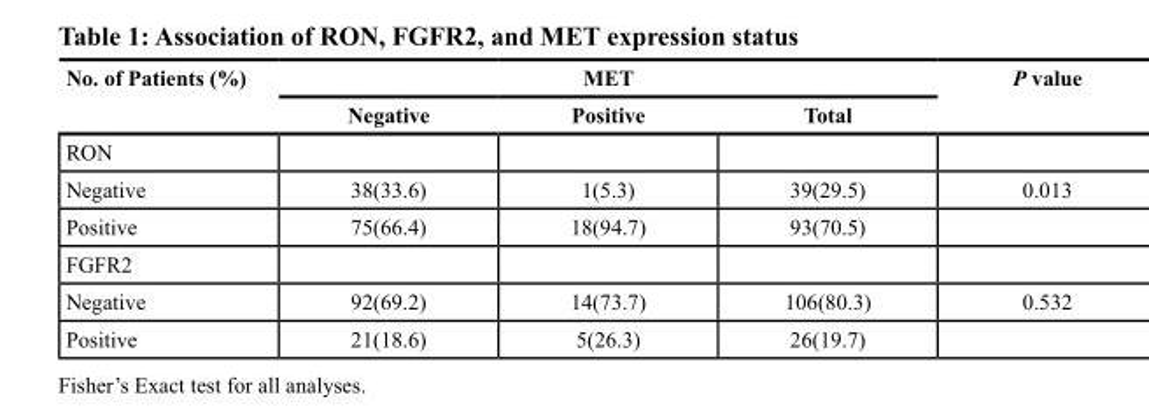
<table><thead><tr><td rowspan="2">No. of Patients (%)</td><td colspan="3">MET</td><td rowspan="2">P value</td></tr><tr><td>Negative</td><td>Positive</td><td>Total</td></tr></thead><tbody><tr><td colspan="5">RON</td></tr><tr><td>Negative</td><td>38(33.6)</td><td>1(5.3)</td><td>39(29.5)</td><td>0.013</td></tr><tr><td>Positive</td><td>75(66.4)</td><td>18(94.7)</td><td>93(70.5)</td><td></td></tr><tr><td colspan="5">FGFR2</td></tr><tr><td>Negative</td><td>92(69.2)</td><td>14(73.7)</td><td>106(80.3)</td><td>0.532</td></tr><tr><td>Positive</td><td>21(18.6)</td><td>5(26.3)</td><td>26(19.7)</td><td></td></tr></tbody></table>